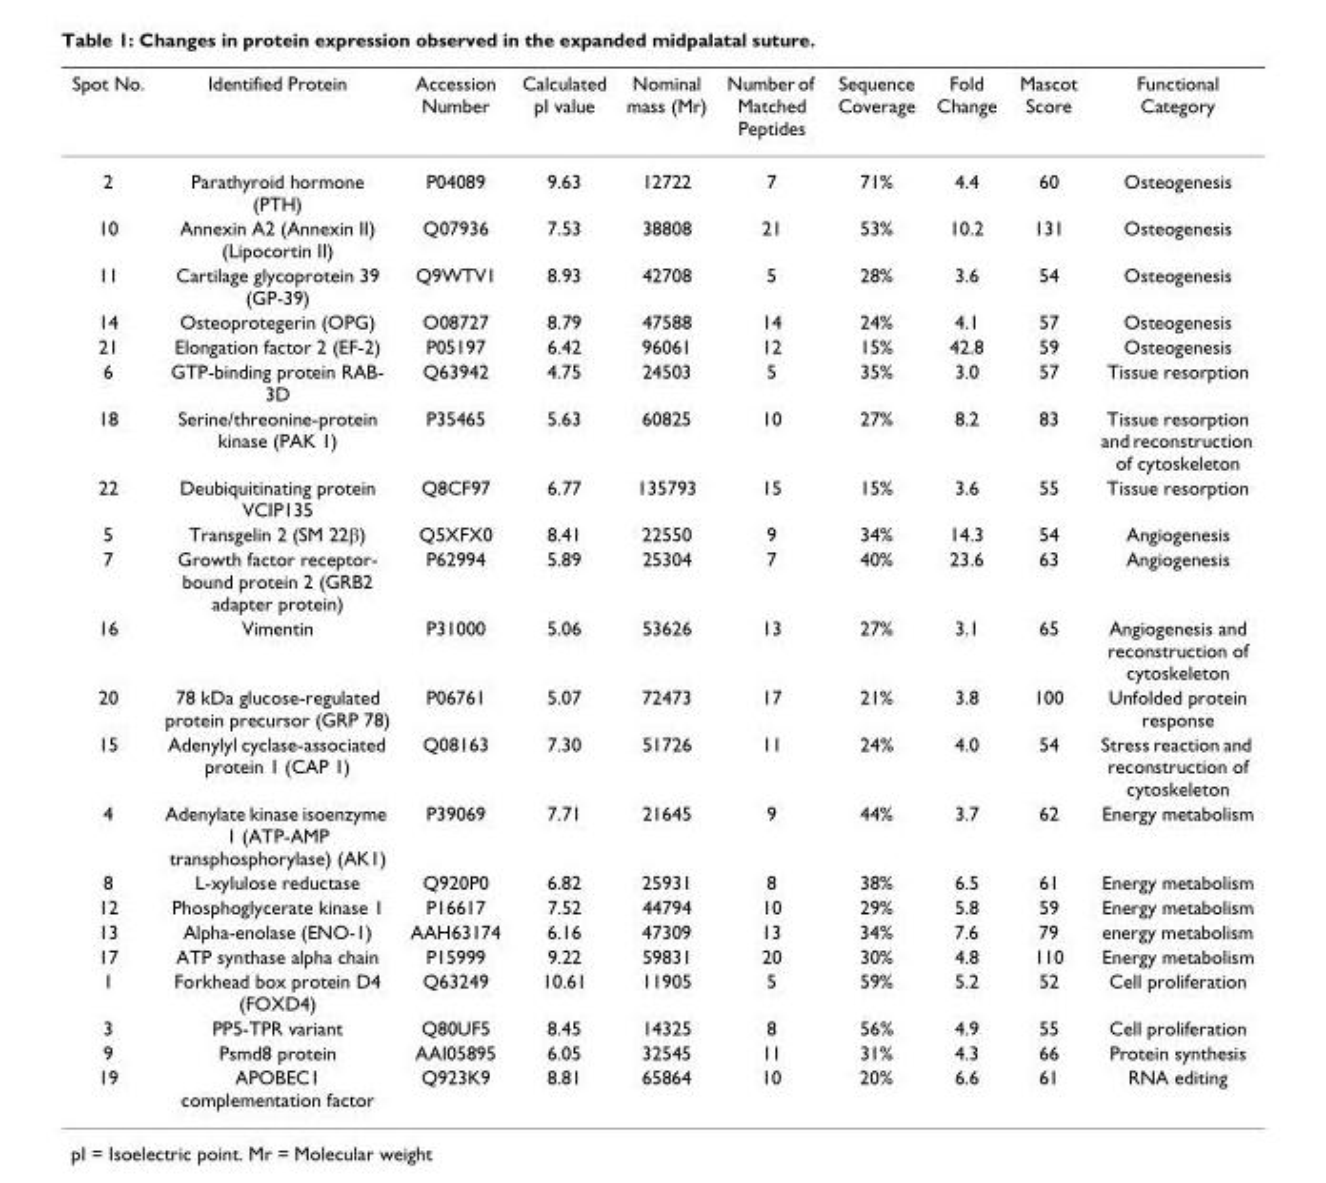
<table><thead><tr><td>Spot No.</td><td>Identified Protein</td><td>Accession Number</td><td>Calculated pI value</td><td>Nominal mass (Mr)</td><td>Number of Matched Peptides</td><td>Sequence Coverage</td><td>Fold Change</td><td>Mascot Score</td><td>Functional Category</td></tr></thead><tbody><tr><td>2</td><td>Parathyroid hormone (PTH)</td><td>P04089</td><td>9.63</td><td>12722</td><td>7</td><td>71%</td><td>4.4</td><td>60</td><td>Osteogenesis</td></tr><tr><td>10</td><td>Annexin A2 (Annexin II) (Lipocortin II)</td><td>Q07936</td><td>7.53</td><td>38808</td><td>21</td><td>53%</td><td>10.2</td><td>131</td><td>Osteogenesis</td></tr><tr><td>11</td><td>Cartilage glycoprotein 39 (GP-39)</td><td>Q9WTV1</td><td>8.93</td><td>42708</td><td>5</td><td>28%</td><td>3.6</td><td>54</td><td>Osteogenesis</td></tr><tr><td>14</td><td>Osteoprotegerin (OPG)</td><td>O08727</td><td>8.79</td><td>47588</td><td>14</td><td>24%</td><td>4.1</td><td>57</td><td>Osteogenesis</td></tr><tr><td>21</td><td>Elongation factor 2 (EF-2)</td><td>P05197</td><td>6.42</td><td>96061</td><td>12</td><td>15%</td><td>42.8</td><td>59</td><td>Osteogenesis</td></tr><tr><td>6</td><td>GTP-binding protein RAB- 3D</td><td>Q63942</td><td>4.75</td><td>24503</td><td>5</td><td>35%</td><td>3.0</td><td>57</td><td>Tissue resorption</td></tr><tr><td>18</td><td>Serine/threonine-protein kinase (PAK 1)</td><td>P35465</td><td>5.63</td><td>60825</td><td>10</td><td>27%</td><td>8.2</td><td>83</td><td>Tissue resorption and reconstruction of cytoskeleton</td></tr><tr><td>22</td><td>Deubiquitinating protein VCIP135</td><td>Q8CF97</td><td>6.77</td><td>135793</td><td>15</td><td>15%</td><td>3.6</td><td>55</td><td>Tissue resorption</td></tr><tr><td>5</td><td>Transgelin 2 (SM 22β)</td><td>Q5XFX0</td><td>8.41</td><td>22550</td><td>9</td><td>34%</td><td>14.3</td><td>54</td><td>Angiogenesis</td></tr><tr><td>7</td><td>Growth factor receptor- bound protein 2 (GRB2 adapter protein)</td><td>P62994</td><td>5.89</td><td>25304</td><td>7</td><td>40%</td><td>23.6</td><td>63</td><td>Angiogenesis</td></tr><tr><td>16</td><td>Vimentin</td><td>P31000</td><td>5.06</td><td>53626</td><td>13</td><td>27%</td><td>3.1</td><td>65</td><td>Angiogenesis and reconstruction of cytoskeleton</td></tr><tr><td>20</td><td>78 kDa glucose-regulated protein precursor (GRP 78)</td><td>P06761</td><td>5.07</td><td>72473</td><td>17</td><td>21%</td><td>3.8</td><td>100</td><td>Unfolded protein response</td></tr><tr><td>15</td><td>Adenylyl cyclase-associated protein 1 (CAP 1)</td><td>Q08163</td><td>7.30</td><td>51726</td><td>11</td><td>24%</td><td>4.0</td><td>54</td><td>Stress reaction and reconstruction of cytoskeleton</td></tr><tr><td>4</td><td>Adenylate kinase isoenzyme 1 (ATP-AMP transphosphorylase) (AK1)</td><td>P39069</td><td>7.71</td><td>21645</td><td>9</td><td>44%</td><td>3.7</td><td>62</td><td>Energy metabolism</td></tr><tr><td>8</td><td>L-xylulose reductase</td><td>Q920P0</td><td>6.82</td><td>25931</td><td>8</td><td>38%</td><td>6.5</td><td>61</td><td>Energy metabolism</td></tr><tr><td>12</td><td>Phosphoglycerate kinase 1</td><td>P16617</td><td>7.52</td><td>44794</td><td>10</td><td>29%</td><td>5.8</td><td>59</td><td>Energy metabolism</td></tr><tr><td>13</td><td>Alpha-enolase (ENO-1)</td><td>AAH63174</td><td>6.16</td><td>47309</td><td>13</td><td>34%</td><td>7.6</td><td>79</td><td>energy metabolism</td></tr><tr><td>17</td><td>ATP synthase alpha chain</td><td>P15999</td><td>9.22</td><td>59831</td><td>20</td><td>30%</td><td>4.8</td><td>110</td><td>Energy metabolism</td></tr><tr><td>1</td><td>Forkhead box protein D4 (FOXD4)</td><td>Q63249</td><td>10.61</td><td>11905</td><td>5</td><td>59%</td><td>5.2</td><td>52</td><td>Cell proliferation</td></tr><tr><td>3</td><td>PP5-TPR variant</td><td>Q80UF5</td><td>8.45</td><td>14325</td><td>8</td><td>56%</td><td>4.9</td><td>55</td><td>Cell proliferation</td></tr><tr><td>9</td><td>Psmd8 protein</td><td>AAI05895</td><td>6.05</td><td>32545</td><td>11</td><td>31%</td><td>4.3</td><td>66</td><td>Protein synthesis</td></tr><tr><td>19</td><td>APOBEC1 complementation factor</td><td>Q923K9</td><td>8.81</td><td>65864</td><td>10</td><td>20%</td><td>6.6</td><td>61</td><td>RNA editing</td></tr></tbody></table>